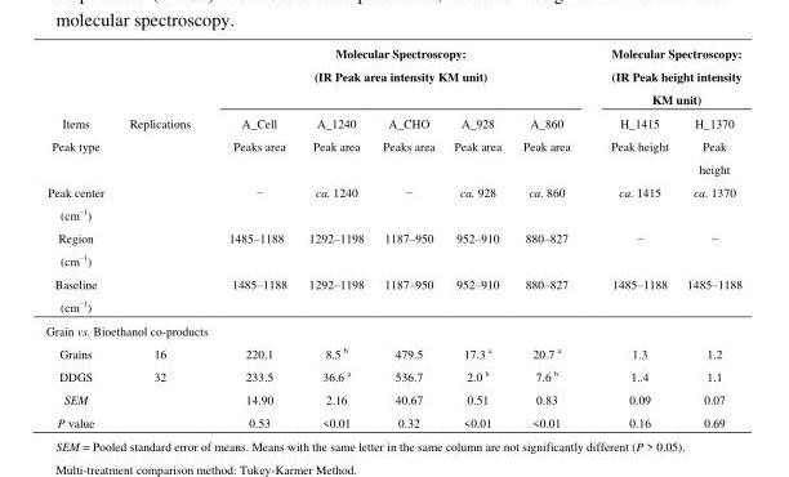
<table><thead><tr><td rowspan="3">Items Peak type</td><td rowspan="3">Replications</td><td colspan="5">Molecular Spectroscopy: (IR Peak area intensity KM unit)</td><td colspan="2">Molecular Spectroscopy: (IR Peak height intensity KM unit)</td></tr><tr><td rowspan="2">A_Cell Peaks area</td><td rowspan="2">A_1240 Peak area</td><td rowspan="2">A_CHO Peaks area</td><td rowspan="2">A_928 Peak area</td><td rowspan="2">A_860 Peak area</td><td rowspan="2">H_1415 Peak height</td><td rowspan="2">H_1370 Peak height</td></tr><tr></tr></thead><tbody><tr><td>Peak center (cm−1)</td><td></td><td>−</td><td>ca. 1240</td><td>−</td><td>ca. 928</td><td>ca. 860</td><td>ca. 1415</td><td>ca. 1370</td></tr><tr><td>Region (cm−1)</td><td></td><td>1485–1188</td><td>1292–1198</td><td>1187–950</td><td>952–910</td><td>880–827</td><td>−</td><td>−</td></tr><tr><td>Baseline (cm−1)</td><td></td><td>1485–1188</td><td>1292–1198</td><td>1187–950</td><td>952–910</td><td>880–827</td><td>1485–1188</td><td>1485–1188</td></tr><tr><td colspan="9">Grain vs. Bioethanol co-products</td></tr><tr><td>Grains</td><td>16</td><td>220.1</td><td>8.5 <sup>b</sup></td><td>479.5</td><td>17.3 <sup>a</sup></td><td>20.7 <sup>a</sup></td><td>1.3</td><td>1.2</td></tr><tr><td>DDGS</td><td>32</td><td>233.5</td><td>36.6 <sup>a</sup></td><td>536.7</td><td>2.0 <sup>b</sup></td><td>7.6 <sup>b</sup></td><td>1..4</td><td>1.1</td></tr><tr><td>SEM</td><td></td><td>14.90</td><td>2.16</td><td>40.67</td><td>0.51</td><td>0.83</td><td>0.09</td><td>0.07</td></tr><tr><td>P value</td><td></td><td>0.53</td><td>&lt;0.01</td><td>0.32</td><td>&lt;0.01</td><td>&lt;0.01</td><td>0.16</td><td>0.69</td></tr></tbody></table>